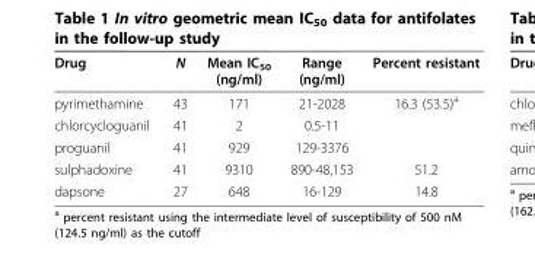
<table><thead><tr><td>Drug</td><td>N</td><td>Mean IC<sub>50</sub> (ng/ml)</td><td>Range (ng/ml)</td><td>Percent resistant</td></tr></thead><tbody><tr><td>pyrimethamine</td><td>43</td><td>171</td><td>21-2028</td><td>16.3 (53.5)<sup>a</sup></td></tr><tr><td>chlorcycloguanil</td><td>41</td><td>2</td><td>0.5-11</td><td></td></tr><tr><td>proguanil</td><td>41</td><td>929</td><td>129-3376</td><td></td></tr><tr><td>sulphadoxine</td><td>41</td><td>9310</td><td>890-48,153</td><td>51.2</td></tr><tr><td>dapsone</td><td>27</td><td>648</td><td>16-129</td><td>14.8</td></tr></tbody></table>